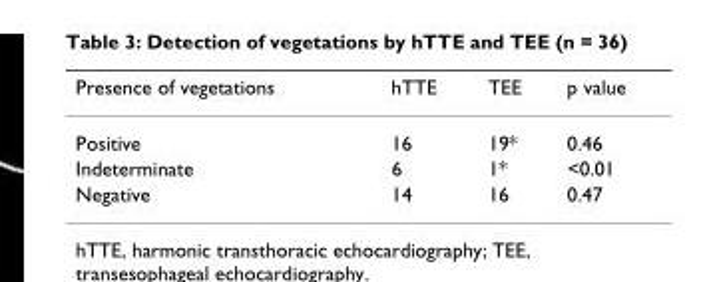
<table><thead><tr><td>Presence of vegetations</td><td>hTTE</td><td>TEE</td><td>p value</td></tr></thead><tbody><tr><td>Positive</td><td>16</td><td>19*</td><td>0.46</td></tr><tr><td>Indeterminate</td><td>6</td><td>1*</td><td>&lt;0.01</td></tr><tr><td>Negative</td><td>14</td><td>16</td><td>0.47</td></tr></tbody></table>